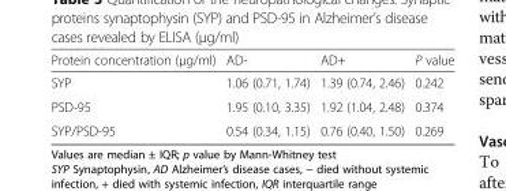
<table><thead><tr><td>Protein concentration (μg/ml)</td><td>AD-</td><td>AD+</td><td>P value</td></tr></thead><tbody><tr><td>SYP</td><td>1.06 (0.71, 1.74)</td><td>1.39 (0.74, 2.46)</td><td>0.242</td></tr><tr><td>PSD-95</td><td>1.95 (0.10, 3.35)</td><td>1.92 (1.04, 2.48)</td><td>0.374</td></tr><tr><td>SYP/PSD-95</td><td>0.54 (0.34, 1.15)</td><td>0.76 (0.40, 1.50)</td><td>0.269</td></tr></tbody></table>